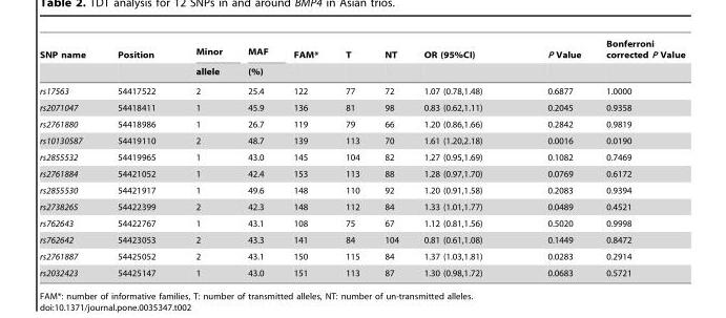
<table><thead><tr><td rowspan="2">SNP name</td><td rowspan="2">Position</td><td rowspan="2">Minor allele</td><td rowspan="2">MAF (%)</td><td rowspan="2">FAM*</td><td rowspan="2">T</td><td rowspan="2">NT</td><td rowspan="2">OR (95%CI)</td><td rowspan="2">P Value</td><td rowspan="2">Bonferroni corrected P Value</td></tr><tr></tr></thead><tbody><tr><td>rs17563</td><td>54417522</td><td>2</td><td>25.4</td><td>122</td><td>77</td><td>72</td><td>1.07 (0.78,1.48)</td><td>0.6877</td><td>1.0000</td></tr><tr><td>rs2071047</td><td>54418411</td><td>1</td><td>45.9</td><td>136</td><td>81</td><td>98</td><td>0.83 (0.62,1.11)</td><td>0.2045</td><td>0.9358</td></tr><tr><td>rs2761880</td><td>54418986</td><td>1</td><td>26.7</td><td>119</td><td>79</td><td>66</td><td>1.20 (0.86,1.66)</td><td>0.2842</td><td>0.9819</td></tr><tr><td>rs10130587</td><td>54419110</td><td>2</td><td>48.7</td><td>139</td><td>113</td><td>70</td><td>1.61 (1.20,2.18)</td><td>0.0016</td><td>0.0190</td></tr><tr><td>rs2855532</td><td>54419965</td><td>1</td><td>43.0</td><td>145</td><td>104</td><td>82</td><td>1.27 (0.95,1.69)</td><td>0.1082</td><td>0.7469</td></tr><tr><td>rs2761884</td><td>54421052</td><td>1</td><td>42.4</td><td>153</td><td>113</td><td>88</td><td>1.28 (0.97,1.70)</td><td>0.0769</td><td>0.6172</td></tr><tr><td>rs2855530</td><td>54421917</td><td>1</td><td>49.6</td><td>148</td><td>110</td><td>92</td><td>1.20 (0.91,1.58)</td><td>0.2083</td><td>0.9394</td></tr><tr><td>rs2738265</td><td>54422399</td><td>2</td><td>42.3</td><td>148</td><td>112</td><td>84</td><td>1.33 (1.01,1.77)</td><td>0.0489</td><td>0.4521</td></tr><tr><td>rs762643</td><td>54422767</td><td>1</td><td>43.1</td><td>108</td><td>75</td><td>67</td><td>1.12 (0.81,1.56)</td><td>0.5020</td><td>0.9998</td></tr><tr><td>rs762642</td><td>54423053</td><td>2</td><td>43.3</td><td>141</td><td>84</td><td>104</td><td>0.81 (0.61,1.08)</td><td>0.1449</td><td>0.8472</td></tr><tr><td>rs2761887</td><td>54425052</td><td>2</td><td>43.1</td><td>150</td><td>115</td><td>84</td><td>1.37 (1.03,1.81)</td><td>0.0283</td><td>0.2914</td></tr><tr><td>rs2032423</td><td>54425147</td><td>1</td><td>43.0</td><td>151</td><td>113</td><td>87</td><td>1.30 (0.98,1.72)</td><td>0.0683</td><td>0.5721</td></tr></tbody></table>